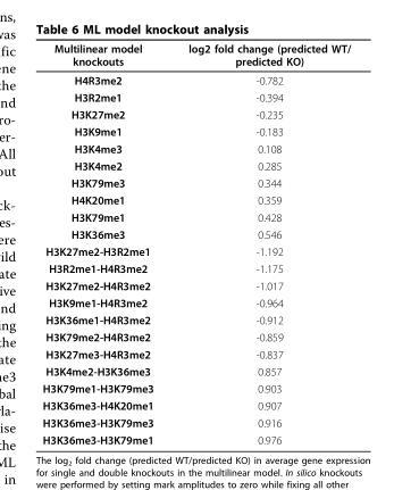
<table><thead><tr><td>Multilinear model knockouts</td><td>log2 fold change (predicted WT/ predicted KO)</td></tr></thead><tbody><tr><td>H4R3me2</td><td>-0.782</td></tr><tr><td>H3R2me1</td><td>-0.394</td></tr><tr><td>H3K27me2</td><td>-0.235</td></tr><tr><td>H3K9me1</td><td>-0.183</td></tr><tr><td>H3K4me3</td><td>0.108</td></tr><tr><td>H3K4me2</td><td>0.285</td></tr><tr><td>H3K79me3</td><td>0.344</td></tr><tr><td>H4K20me1</td><td>0.359</td></tr><tr><td>H3K79me1</td><td>0.428</td></tr><tr><td>H3K36me3</td><td>0.546</td></tr><tr><td>H3K27me2-H3R2me1</td><td>-1.192</td></tr><tr><td>H3R2me1-H4R3me2</td><td>-1.175</td></tr><tr><td>H3K27me2-H4R3me2</td><td>-1.017</td></tr><tr><td>H3K9me1-H4R3me2</td><td>-0.964</td></tr><tr><td>H3K36me1-H4R3me2</td><td>-0.912</td></tr><tr><td>H3K79me2-H4R3me2</td><td>-0.859</td></tr><tr><td>H3K27me3-H4R3me2</td><td>-0.837</td></tr><tr><td>H3K4me2-H3K36me3</td><td>0.857</td></tr><tr><td>H3K79me1-H3K79me3</td><td>0.903</td></tr><tr><td>H3K36me3-H4K20me1</td><td>0.907</td></tr><tr><td>H3K36me3-H3K79me3</td><td>0.916</td></tr><tr><td>H3K36me3-H3K79me1</td><td>0.976</td></tr></tbody></table>